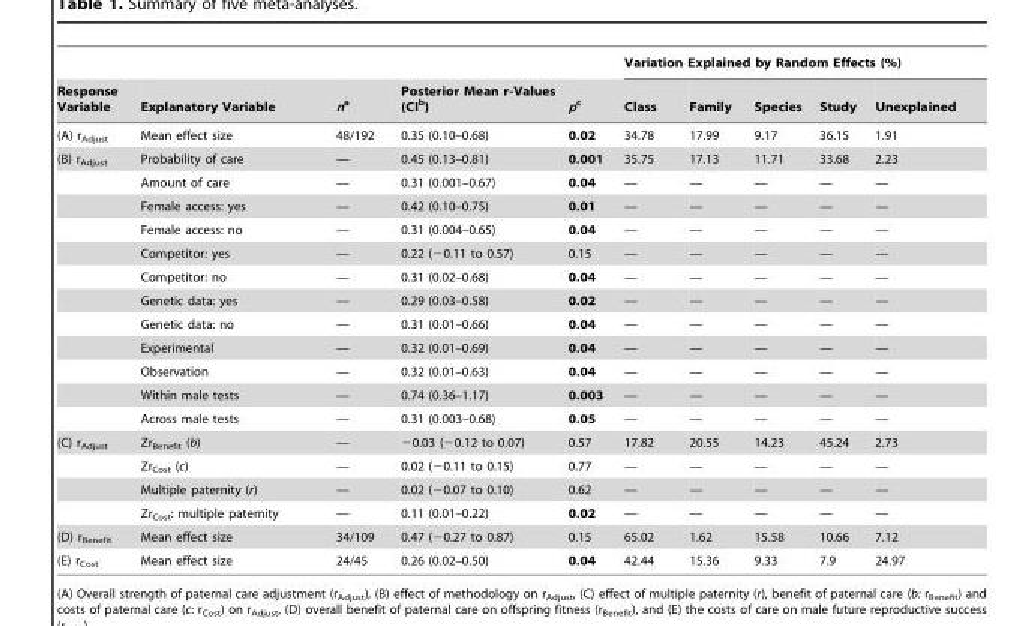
<table><thead><tr><td rowspan="2">Response Variable</td><td rowspan="2">Explanatory Variable</td><td rowspan="2">na</td><td rowspan="2">Posterior Mean r-Values (CI<sup>b</sup>)</td><td rowspan="2">pc</td><td colspan="5">Variation Explained by Random Effects (%)</td></tr><tr><td>Class</td><td>Family</td><td>Species</td><td>Study</td><td>Unexplained</td></tr></thead><tbody><tr><td>(A) r<sub>Adjust</sub></td><td>Mean effect size</td><td>48/192</td><td>0.35 (0.10–0.68)</td><td>0.02</td><td>34.78</td><td>17.99</td><td>9.17</td><td>36.15</td><td>1.91</td></tr><tr><td rowspan="12">(B) r<sub>Adjust</sub></td><td>Probability of care</td><td>—</td><td>0.45 (0.13–0.81)</td><td>0.001</td><td>35.75</td><td>17.13</td><td>11.71</td><td>33.68</td><td>2.23</td></tr><tr><td>Amount of care</td><td>—</td><td>0.31 (0.001–0.67)</td><td>0.04</td><td>—</td><td>—</td><td>—</td><td>—</td><td>—</td></tr><tr><td>Female access: yes</td><td>—</td><td>0.42 (0.10–0.75)</td><td>0.01</td><td>—</td><td>—</td><td>—</td><td>—</td><td>—</td></tr><tr><td>Female access: no</td><td>—</td><td>0.31 (0.004–0.65)</td><td>0.04</td><td>—</td><td>—</td><td>—</td><td>—</td><td>—</td></tr><tr><td>Competitor: yes</td><td>—</td><td>0.22 (−0.11 to 0.57)</td><td>0.15</td><td>—</td><td>—</td><td>—</td><td>—</td><td>—</td></tr><tr><td>Competitor: no</td><td>—</td><td>0.31 (0.02–0.68)</td><td>0.04</td><td>—</td><td>—</td><td>—</td><td>—</td><td>—</td></tr><tr><td>Genetic data: yes</td><td>—</td><td>0.29 (0.03–0.58)</td><td>0.02</td><td>—</td><td>—</td><td>—</td><td>—</td><td>—</td></tr><tr><td>Genetic data: no</td><td>—</td><td>0.31 (0.01–0.66)</td><td>0.04</td><td>—</td><td>—</td><td>—</td><td>—</td><td>—</td></tr><tr><td>Experimental</td><td>—</td><td>0.32 (0.01–0.69)</td><td>0.04</td><td>—</td><td>—</td><td>—</td><td>—</td><td>—</td></tr><tr><td>Observation</td><td>—</td><td>0.32 (0.01–0.63)</td><td>0.04</td><td>—</td><td>—</td><td>—</td><td>—</td><td>—</td></tr><tr><td>Within male tests</td><td>—</td><td>0.74 (0.36–1.17)</td><td>0.003</td><td>—</td><td>—</td><td>—</td><td>—</td><td>—</td></tr><tr><td>Across male tests</td><td>—</td><td>0.31 (0.003–0.68)</td><td>0.05</td><td>—</td><td>—</td><td>—</td><td>—</td><td>—</td></tr><tr><td rowspan="4">(C) r<sub>Adjust</sub></td><td>Zr<sub>Benefit</sub> (b)</td><td>—</td><td>−0.03 (−0.12 to 0.07)</td><td>0.57</td><td>17.82</td><td>20.55</td><td>14.23</td><td>45.24</td><td>2.73</td></tr><tr><td>Zr<sub>Cost</sub> (c)</td><td>—</td><td>0.02 (−0.11 to 0.15)</td><td>0.77</td><td>—</td><td>—</td><td>—</td><td>—</td><td>—</td></tr><tr><td>Multiple paternity (r)</td><td>—</td><td>0.02 (−0.07 to 0.10)</td><td>0.62</td><td>—</td><td>—</td><td>—</td><td>—</td><td>—</td></tr><tr><td>Zr<sub>Cost</sub>: multiple paternity</td><td>—</td><td>0.11 (0.01–0.22)</td><td>0.02</td><td>—</td><td>—</td><td>—</td><td>—</td><td>—</td></tr><tr><td>(D) r<sub>Benefit</sub></td><td>Mean effect size</td><td>34/109</td><td>0.47 (−0.27 to 0.87)</td><td>0.15</td><td>65.02</td><td>1.62</td><td>15.58</td><td>10.66</td><td>7.12</td></tr><tr><td>(E) r<sub>Cost</sub></td><td>Mean effect size</td><td>24/45</td><td>0.26 (0.02–0.50)</td><td>0.04</td><td>42.44</td><td>15.36</td><td>9.33</td><td>7.9</td><td>24.97</td></tr></tbody></table>